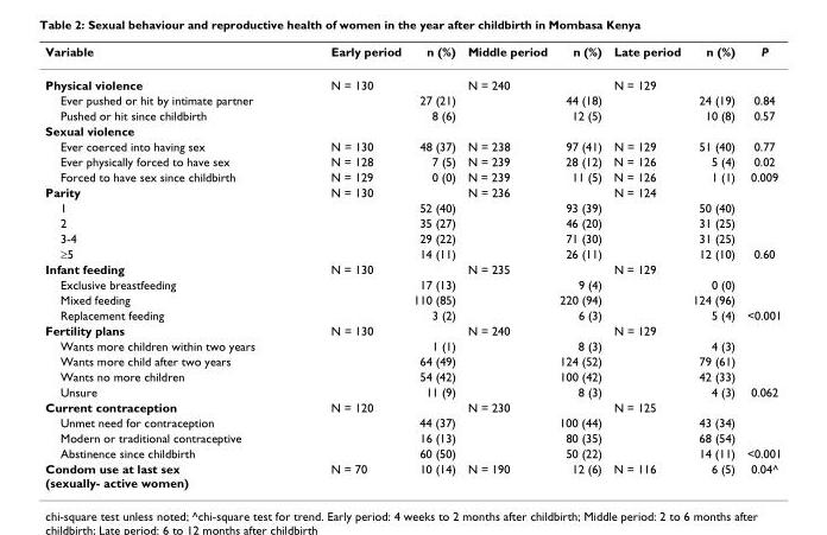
<table><thead><tr><td>Variable</td><td>Early period</td><td>n (%)</td><td>Middle period</td><td>n (%)</td><td>Late period</td><td>n (%)</td><td>P</td></tr></thead><tbody><tr><td>Physical violence</td><td>N = 130</td><td></td><td>N = 240</td><td></td><td>N = 129</td><td></td><td></td></tr><tr><td>Ever pushed or hit by intimate partner</td><td></td><td>27 (21)</td><td></td><td>44 (18)</td><td></td><td>24 (19)</td><td>0.84</td></tr><tr><td>Pushed or hit since childbirth</td><td></td><td>8 (6)</td><td></td><td>12 (5)</td><td></td><td>10 (8)</td><td>0.57</td></tr><tr><td colspan="8">Sexual violence</td></tr><tr><td>Ever coerced into having sex</td><td>N = 130</td><td>48 (37)</td><td>N = 238</td><td>97 (41)</td><td>N = 129</td><td>51 (40)</td><td>0.77</td></tr><tr><td>Ever physically forced to have sex</td><td>N = 128</td><td>7 (5)</td><td>N = 239</td><td>28 (12)</td><td>N = 126</td><td>5 (4)</td><td>0.02</td></tr><tr><td>Forced to have sex since childbirth</td><td>N = 129</td><td>0 (0)</td><td>N = 239</td><td>11 (5)</td><td>N = 126</td><td>1 (1)</td><td>0.009</td></tr><tr><td>Parity</td><td>N = 130</td><td></td><td>N = 236</td><td></td><td>N = 124</td><td></td><td></td></tr><tr><td>1</td><td></td><td>52 (40)</td><td></td><td>93 (39)</td><td></td><td>50 (40)</td><td></td></tr><tr><td>2</td><td></td><td>35 (27)</td><td></td><td>46 (20)</td><td></td><td>31 (25)</td><td></td></tr><tr><td>3-4</td><td></td><td>29 (22)</td><td></td><td>71 (30)</td><td></td><td>31 (25)</td><td></td></tr><tr><td>≥5</td><td></td><td>14 (11)</td><td></td><td>26 (11)</td><td></td><td>12 (10)</td><td>0.60</td></tr><tr><td>Infant feeding</td><td>N = 130</td><td></td><td>N = 235</td><td></td><td>N = 129</td><td></td><td></td></tr><tr><td>Exclusive breastfeeding</td><td></td><td>17 (13)</td><td></td><td>9 (4)</td><td></td><td>0 (0)</td><td></td></tr><tr><td>Mixed feeding</td><td></td><td>110 (85)</td><td></td><td>220 (94)</td><td></td><td>124 (96)</td><td></td></tr><tr><td>Replacement feeding</td><td></td><td>3 (2)</td><td></td><td>6 (3)</td><td></td><td>5 (4)</td><td>&lt;0.001</td></tr><tr><td>Fertility plans</td><td>N = 130</td><td></td><td>N = 240</td><td></td><td>N = 129</td><td></td><td></td></tr><tr><td>Wants more children within two years</td><td></td><td>1 (1)</td><td></td><td>8 (3)</td><td></td><td>4 (3)</td><td></td></tr><tr><td>Wants more child after two years</td><td></td><td>64 (49)</td><td></td><td>124 (52)</td><td></td><td>79 (61)</td><td></td></tr><tr><td>Wants no more children</td><td></td><td>54 (42)</td><td></td><td>100 (42)</td><td></td><td>42 (33)</td><td></td></tr><tr><td>Unsure</td><td></td><td>11 (9)</td><td></td><td>8 (3)</td><td></td><td>4 (3)</td><td>0.062</td></tr><tr><td>Current contraception</td><td>N = 120</td><td></td><td>N = 230</td><td></td><td>N = 125</td><td></td><td></td></tr><tr><td>Unmet need for contraception</td><td></td><td>44 (37)</td><td></td><td>100 (44)</td><td></td><td>43 (34)</td><td></td></tr><tr><td>Modern or traditional contraceptive</td><td></td><td>16 (13)</td><td></td><td>80 (35)</td><td></td><td>68 (54)</td><td></td></tr><tr><td>Abstinence since childbirth</td><td></td><td>60 (50)</td><td></td><td>50 (22)</td><td></td><td>14 (11)</td><td>&lt;0.001</td></tr><tr><td>Condom use at last sex (sexually- active women)</td><td>N = 70</td><td>10 (14)</td><td>N = 190</td><td>12 (6)</td><td>N = 116</td><td>6 (5)</td><td>0.04^</td></tr></tbody></table>